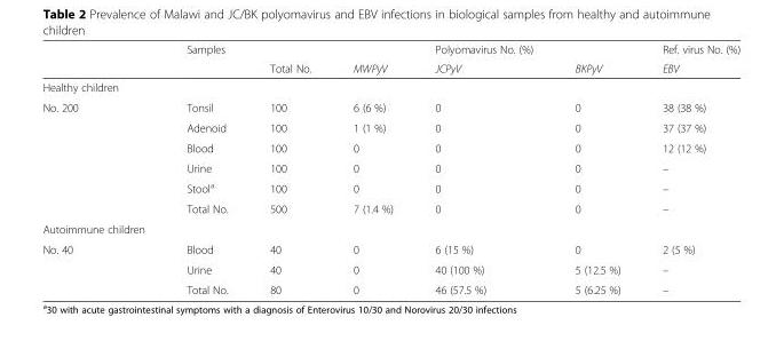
<table><thead><tr><td rowspan="2"></td><td rowspan="2">Samples</td><td rowspan="2">Total No.</td><td rowspan="2">MWPyV</td><td rowspan="2">Polyomavirus No. (%) JCPyV</td><td rowspan="2">BKPyV</td><td rowspan="2">Ref. virus No. (%) EBV</td></tr><tr></tr></thead><tbody><tr><td colspan="7">Healthy children</td></tr><tr><td rowspan="6">No. 200</td><td>Tonsil</td><td>100</td><td>6 (6 %)</td><td>0</td><td>0</td><td>38 (38 %)</td></tr><tr><td>Adenoid</td><td>100</td><td>1 (1 %)</td><td>0</td><td>0</td><td>37 (37 %)</td></tr><tr><td>Blood</td><td>100</td><td>0</td><td>0</td><td>0</td><td>12 (12 %)</td></tr><tr><td>Urine</td><td>100</td><td>0</td><td>0</td><td>0</td><td>–</td></tr><tr><td>Stool<sup>a</sup></td><td>100</td><td>0</td><td>0</td><td>0</td><td>–</td></tr><tr><td>Total No.</td><td>500</td><td>7 (1.4 %)</td><td>0</td><td>0</td><td>–</td></tr><tr><td colspan="7">Autoimmune children</td></tr><tr><td rowspan="3">No. 40</td><td>Blood</td><td>40</td><td>0</td><td>6 (15 %)</td><td>0</td><td>2 (5 %)</td></tr><tr><td>Urine</td><td>40</td><td>0</td><td>40 (100 %)</td><td>5 (12.5 %)</td><td>–</td></tr><tr><td>Total No.</td><td>80</td><td>0</td><td>46 (57.5 %)</td><td>5 (6.25 %)</td><td>–</td></tr></tbody></table>